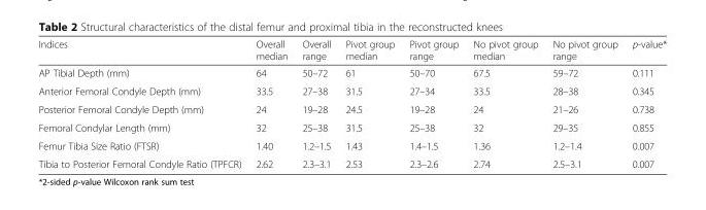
<table><thead><tr><td>Indices</td><td>Overall median</td><td>Overall range</td><td>Pivot group median</td><td>Pivot group range</td><td>No pivot group median</td><td>No pivot group range</td><td>p-value*</td></tr></thead><tbody><tr><td>AP Tibial Depth (mm)</td><td>64</td><td>50–72</td><td>61</td><td>50–70</td><td>67.5</td><td>59–72</td><td>0.111</td></tr><tr><td>Anterior Femoral Condyle Depth (mm)</td><td>33.5</td><td>27–38</td><td>31.5</td><td>27–34</td><td>33.5</td><td>28–38</td><td>0.345</td></tr><tr><td>Posterior Femoral Condyle Depth (mm)</td><td>24</td><td>19–28</td><td>24.5</td><td>19–28</td><td>24</td><td>21–26</td><td>0.738</td></tr><tr><td>Femoral Condylar Length (mm)</td><td>32</td><td>25–38</td><td>31.5</td><td>25–38</td><td>32</td><td>29–35</td><td>0.855</td></tr><tr><td>Femur Tibia Size Ratio (FTSR)</td><td>1.40</td><td>1.2–1.5</td><td>1.43</td><td>1.4–1.5</td><td>1.36</td><td>1.2–1.4</td><td>0.007</td></tr><tr><td>Tibia to Posterior Femoral Condyle Ratio (TPFCR)</td><td>2.62</td><td>2.3–3.1</td><td>2.53</td><td>2.3–2.6</td><td>2.74</td><td>2.5–3.1</td><td>0.007</td></tr></tbody></table>